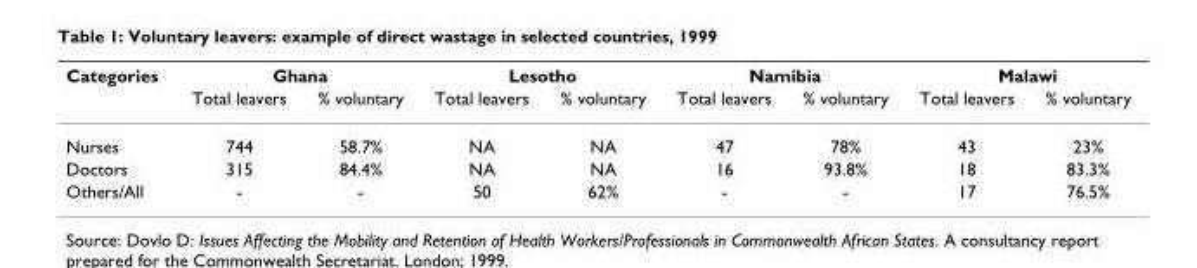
<table><thead><tr><td rowspan="2">Categories</td><td colspan="2">Ghana</td><td colspan="2">Lesotho</td><td colspan="2">Namibia</td><td colspan="2">Malawi</td></tr><tr><td>Total leavers</td><td>% voluntary</td><td>Total leavers</td><td>% voluntary</td><td>Total leavers</td><td>% voluntary</td><td>Total leavers</td><td>% voluntary</td></tr></thead><tbody><tr><td>Nurses</td><td>744</td><td>58.7%</td><td>NA</td><td>NA</td><td>47</td><td>78%</td><td>43</td><td>23%</td></tr><tr><td>Doctors</td><td>315</td><td>84.4%</td><td>NA</td><td>NA</td><td>16</td><td>93.8%</td><td>18</td><td>83.3%</td></tr><tr><td>Others/All</td><td>-</td><td>-</td><td>50</td><td>62%</td><td>-</td><td>-</td><td>17</td><td>76.5%</td></tr></tbody></table>